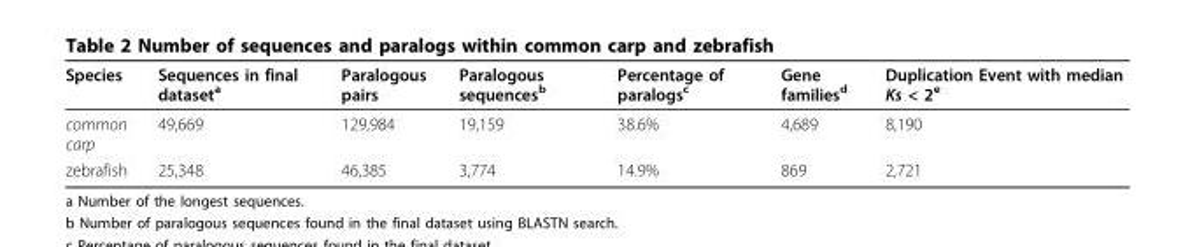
<table><thead><tr><td>Species</td><td>Sequences in final dataset<sup>a</sup></td><td>Paralogous pairs</td><td>Paralogous sequences<sup>b</sup></td><td>Percentage of paralogs<sup>c</sup></td><td>Gene families<sup>d</sup></td><td>Duplication Event with median Ks &lt; 2<sup>e</sup></td></tr></thead><tbody><tr><td>common carp</td><td>49,669</td><td>129,984</td><td>19,159</td><td>38.6%</td><td>4,689</td><td>8,190</td></tr><tr><td>zebrafish</td><td>25,348</td><td>46,385</td><td>3,774</td><td>14.9%</td><td>869</td><td>2,721</td></tr></tbody></table>